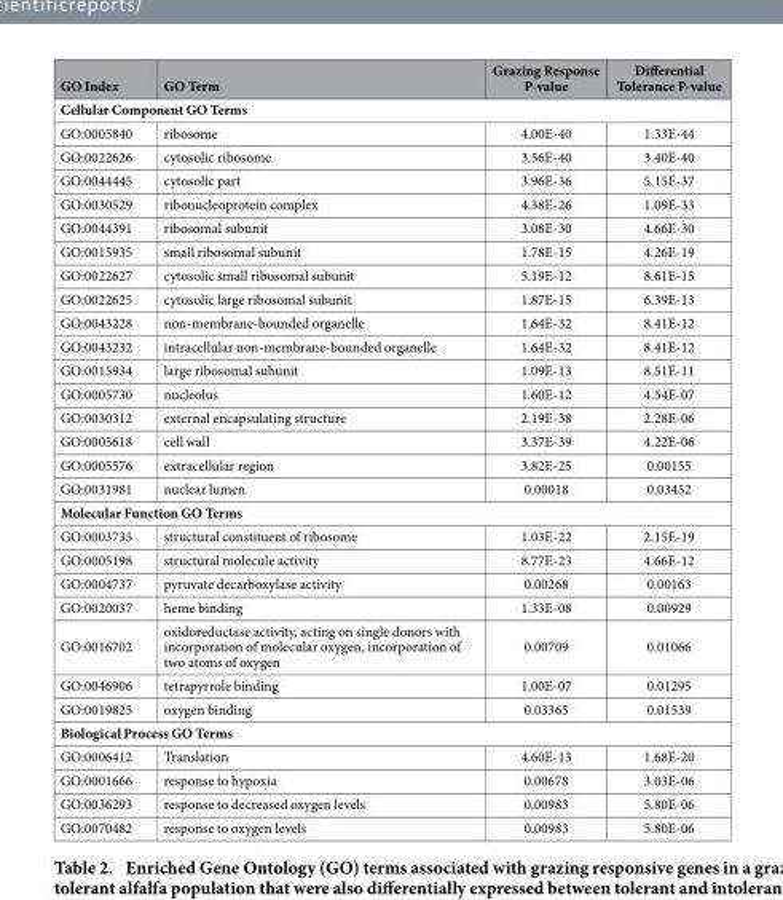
<table><thead><tr><td>GO Index</td><td>GO Term</td><td>Grazing Response P-value</td><td>Differential Tolerance P-value</td></tr></thead><tbody><tr><td colspan="4">Cellular Component GO Terms</td></tr><tr><td>GO:0005840</td><td>ribosome</td><td>4.00E-40</td><td>1.33E-44</td></tr><tr><td>GO:0022626</td><td>cytosolic ribosome</td><td>3.56E-40</td><td>3.40E-40</td></tr><tr><td>GO:0044445</td><td>cytosolic part</td><td>3.96E-36</td><td>5.15E-37</td></tr><tr><td>GO:0030529</td><td>ribonucleoprotein complex</td><td>4.38E-26</td><td>1.09E-33</td></tr><tr><td>GO:0044391</td><td>ribosomal subunit</td><td>3.08E-30</td><td>4.66E-30</td></tr><tr><td>GO:0015935</td><td>small ribosomal subunit</td><td>1.78E-15</td><td>4.26E-19</td></tr><tr><td>GO:0022627</td><td>cytosolic small ribosomal subunit</td><td>5.19E-12</td><td>8.61E-15</td></tr><tr><td>GO:0022625</td><td>cytosolic large ribosomal subunit</td><td>1.87E-15</td><td>6.39E-13</td></tr><tr><td>GO:0043228</td><td>non-membrane-bounded organelle</td><td>1.64E-32</td><td>8.41E-12</td></tr><tr><td>GO:0043232</td><td>intracellular non-membrane-bounded organelle</td><td>1.64E-32</td><td>8.41E-12</td></tr><tr><td>GO:0015934</td><td>large ribosomal subunit</td><td>1.09E-13</td><td>8.51E-11</td></tr><tr><td>GO:0005730</td><td>nucleolus</td><td>1.60E-12</td><td>4.54E-07</td></tr><tr><td>GO:0030312</td><td>external encapsulating structure</td><td>2.19E-38</td><td>2.28E-06</td></tr><tr><td>GO:0005618</td><td>cell wall</td><td>3.37E-39</td><td>4.22E-06</td></tr><tr><td>GO:0005576</td><td>extracellular region</td><td>3.82E-25</td><td>0.00155</td></tr><tr><td>GO:0031981</td><td>nuclear lumen</td><td>0.00018</td><td>0.03452</td></tr><tr><td colspan="4">Molecular Function GO Terms</td></tr><tr><td>GO:0003735</td><td>structural constituent of ribosome</td><td>1.03E-22</td><td>2.15E-19</td></tr><tr><td>GO:0005198</td><td>structural molecule activity</td><td>8.77E-23</td><td>4.66E-12</td></tr><tr><td>GO:0004737</td><td>pyruvate decarboxylase activity</td><td>0.00268</td><td>0.00163</td></tr><tr><td>GO:0020037</td><td>heme binding</td><td>1.33E-08</td><td>0.00929</td></tr><tr><td>GO:0016702</td><td>oxidoreductase activity, acting on single donors with incorporation of molecular oxygen, incorporation of two atoms of oxygen</td><td>0.00709</td><td>0.01066</td></tr><tr><td>GO:0046906</td><td>tetrapyrrole binding</td><td>1.00E-07</td><td>0.01295</td></tr><tr><td>GO:0019825</td><td>oxygen binding</td><td>0.03365</td><td>0.01539</td></tr><tr><td colspan="4">Biological Process GO Terms</td></tr><tr><td>GO:0006412</td><td>Translation</td><td>4.60E-13</td><td>1.68E-20</td></tr><tr><td>GO:0001666</td><td>response to hypoxia</td><td>0.00678</td><td>3.03E-06</td></tr><tr><td>GO:0036293</td><td>response to decreased oxygen levels</td><td>0.00983</td><td>5.80E-06</td></tr><tr><td>GO:0070482</td><td>response to oxygen levels</td><td>0.00983</td><td>5.80E-06</td></tr></tbody></table>